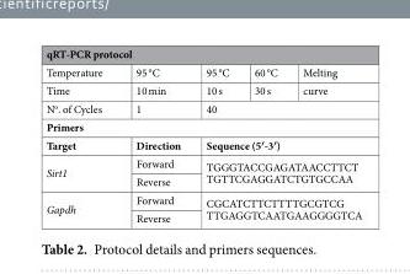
<table><thead><tr><td colspan="5">qRT-PCR protocol</td></tr><tr><td>Temperature</td><td>95 °C</td><td>95 °C</td><td>60 °C</td><td>Melting</td></tr></thead><tbody><tr><td>Time</td><td>10 min</td><td>10 s</td><td>30 s</td><td>curve</td></tr><tr><td>N<sup>o</sup>. of Cycles</td><td>1</td><td colspan="3">40</td></tr><tr><td colspan="5">Primers</td></tr><tr><td>Target</td><td>Direction</td><td colspan="3">Sequence (5′-3′)</td></tr><tr><td rowspan="2">Sirt1</td><td>Forward</td><td rowspan="2" colspan="3">TGGGTACCGAGATAACCTTCT TGTTCGAGGATCTGTGCCAA</td></tr><tr><td>Reverse</td></tr><tr><td rowspan="2">Gapdh</td><td>Forward</td><td rowspan="2" colspan="3">CGCATCTTCTTTTGCGTCG TTGAGGTCAATGAAGGGGTCA</td></tr><tr><td>Reverse</td></tr></tbody></table>